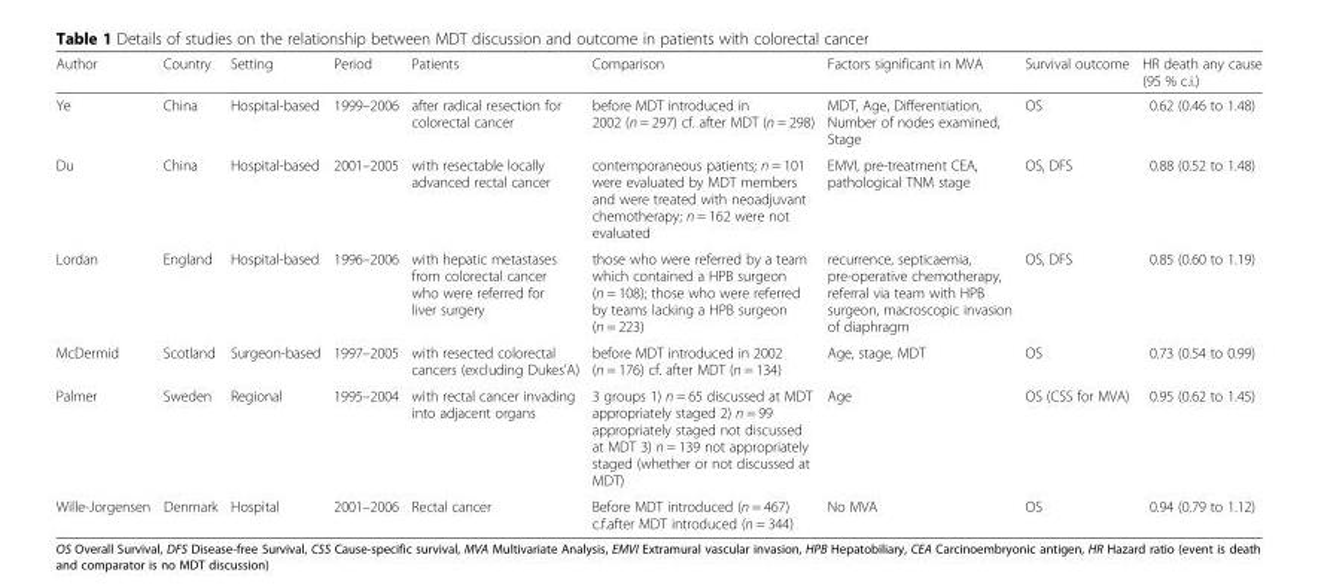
<table><thead><tr><td>Author</td><td>Country</td><td>Setting</td><td>Period</td><td>Patients</td><td>Comparison</td><td>Factors significant in MVA</td><td>Survival outcome</td><td>HR death any cause (95 % c.i.)</td></tr></thead><tbody><tr><td>Ye</td><td>China</td><td>Hospital-based</td><td>1999–2006</td><td>after radical resection for colorectal cancer</td><td>before MDT introduced in 2002 (n = 297) cf. after MDT (n = 298)</td><td>MDT, Age, Differentiation, Number of nodes examined, Stage</td><td>OS</td><td>0.62 (0.46 to 1.48)</td></tr><tr><td>Du</td><td>China</td><td>Hospital-based</td><td>2001–2005</td><td>with resectable locally advanced rectal cancer</td><td>contemporaneous patients; n = 101 were evaluated by MDT members and were treated with neoadjuvant chemotherapy; n = 162 were not evaluated</td><td>EMVI, pre-treatment CEA, pathological TNM stage</td><td>OS, DFS</td><td>0.88 (0.52 to 1.48)</td></tr><tr><td>Lordan</td><td>England</td><td>Hospital-based</td><td>1996–2006</td><td>with hepatic metastases from colorectal cancer who were referred for liver surgery</td><td>those who were referred by a team which contained a HPB surgeon (n = 108); those who were referred by teams lacking a HPB surgeon (n = 223)</td><td>recurrence, septicaemia, pre-operative chemotherapy, referral via team with HPB surgeon, macroscopic invasion of diaphragm</td><td>OS, DFS</td><td>0.85 (0.60 to 1.19)</td></tr><tr><td>McDermid</td><td>Scotland</td><td>Surgeon-based</td><td>1997–2005</td><td>with resected colorectal cancers (excluding Dukes’A)</td><td>before MDT introduced in 2002 (n = 176) cf. after MDT (n = 134)</td><td>Age, stage, MDT</td><td>OS</td><td>0.73 (0.54 to 0.99)</td></tr><tr><td>Palmer</td><td>Sweden</td><td>Regional</td><td>1995–2004</td><td>with rectal cancer invading into adjacent organs</td><td>3 groups 1) n = 65 discussed at MDT appropriately staged 2) n = 99 appropriately staged not discussed at MDT 3) n = 139 not appropriately staged (whether or not discussed at MDT)</td><td>Age</td><td>OS (CSS for MVA)</td><td>0.95 (0.62 to 1.45)</td></tr><tr><td>Wille-Jorgensen</td><td>Denmark</td><td>Hospital</td><td>2001–2006</td><td>Rectal cancer</td><td>Before MDT introduced (n = 467) c.f.after MDT introduced (n = 344)</td><td>No MVA</td><td>OS</td><td>0.94 (0.79 to 1.12)</td></tr></tbody></table>